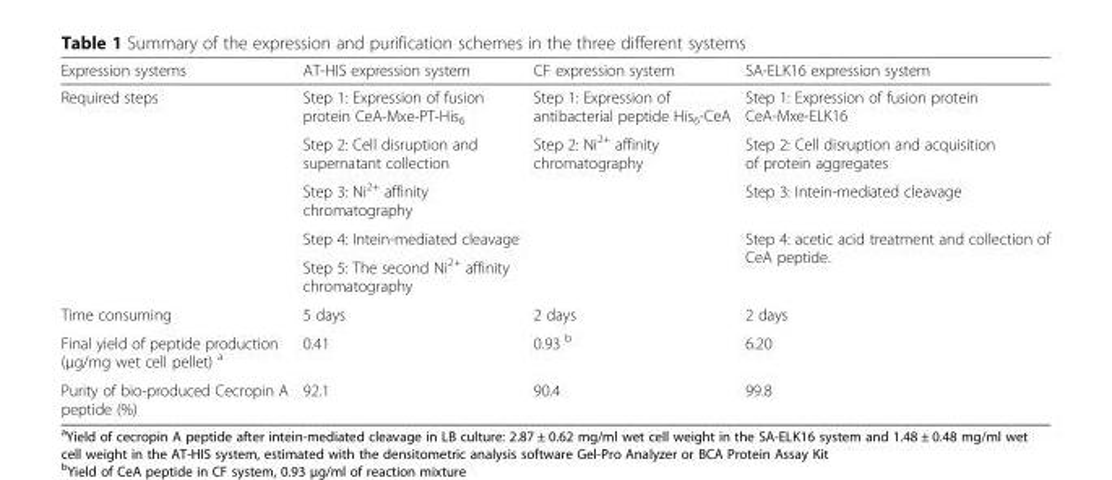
<table><thead><tr><td>Expression systems</td><td>AT-HIS expression system</td><td>CF expression system</td><td>SA-ELK16 expression system</td></tr></thead><tbody><tr><td rowspan="5">Required steps</td><td>Step 1: Expression of fusion protein CeA-Mxe-PT-His<sub>6</sub></td><td>Step 1: Expression of antibacterial peptide His<sub>6</sub>-CeA</td><td>Step 1: Expression of fusion protein CeA-Mxe-ELK16</td></tr><tr><td>Step 2: Cell disruption and supernatant collection</td><td rowspan="4">Step 2: Ni<sup>2+</sup> affinity chromatography</td><td>Step 2: Cell disruption and acquisition of protein aggregates</td></tr><tr><td>Step 3: Ni<sup>2+</sup> affinity chromatography</td><td>Step 3: Intein-mediated cleavage</td></tr><tr><td>Step 4: Intein-mediated cleavage</td><td rowspan="2">Step 4: acetic acid treatment and collection of CeA peptide.</td></tr><tr><td>Step 5: The second Ni<sup>2+</sup> affinity chromatography</td></tr><tr><td>Time consuming</td><td>5 days</td><td>2 days</td><td>2 days</td></tr><tr><td>Final yield of peptide production (μg/mg wet cell pellet) <sup>a</sup></td><td>0.41</td><td>0.93 <sup>b</sup></td><td>6.20</td></tr><tr><td>Purity of bio-produced Cecropin A peptide (%)</td><td>92.1</td><td>90.4</td><td>99.8</td></tr></tbody></table>